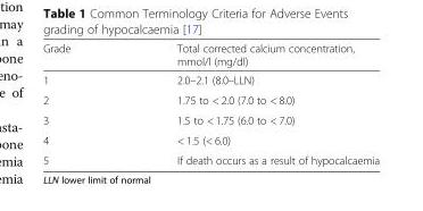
<table><thead><tr><td>Grade</td><td>Total corrected calcium concentration, mmol/l (mg/dl)</td></tr></thead><tbody><tr><td>1</td><td>2.0–2.1 (8.0–LLN)</td></tr><tr><td>2</td><td>1.75 to &lt; 2.0 (7.0 to &lt; 8.0)</td></tr><tr><td>3</td><td>1.5 to &lt; 1.75 (6.0 to &lt; 7.0)</td></tr><tr><td>4</td><td>&lt; 1.5 (&lt; 6.0)</td></tr><tr><td>5</td><td>If death occurs as a result of hypocalcaemia</td></tr></tbody></table>